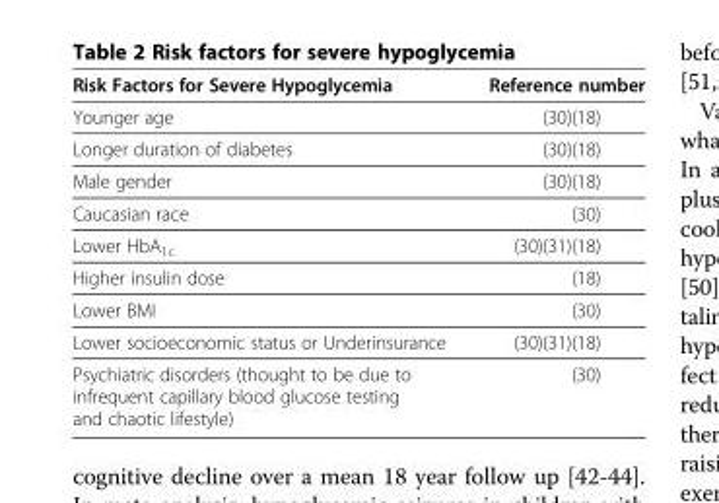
<table><thead><tr><td>Risk Factors for Severe Hypoglycemia</td><td>Reference number</td></tr></thead><tbody><tr><td>Younger age</td><td>(30)(18)</td></tr><tr><td>Longer duration of diabetes</td><td>(30)(18)</td></tr><tr><td>Male gender</td><td>(30)(18)</td></tr><tr><td>Caucasian race</td><td>(30)</td></tr><tr><td>Lower HbA<sub>1c</sub></td><td>(30)(31)(18)</td></tr><tr><td>Higher insulin dose</td><td>(18)</td></tr><tr><td>Lower BMI</td><td>(30)</td></tr><tr><td>Lower socioeconomic status or Underinsurance</td><td>(30)(31)(18)</td></tr><tr><td>Psychiatric disorders (thought to be due to infrequent capillary blood glucose testing and chaotic lifestyle)</td><td>(30)</td></tr></tbody></table>